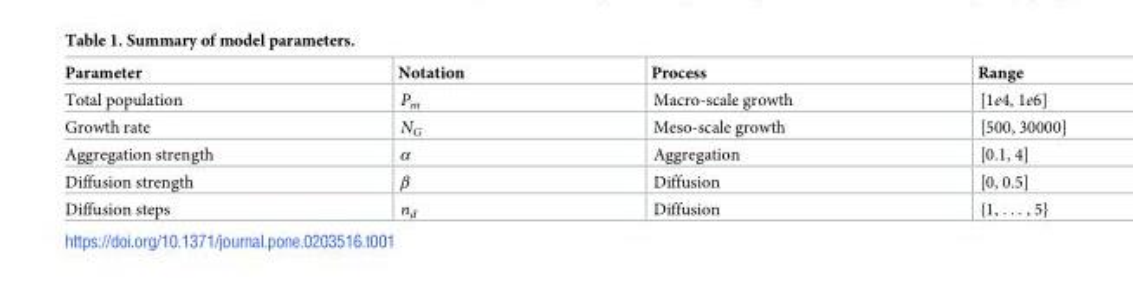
<table><thead><tr><td>Parameter</td><td>Notation</td><td>Process</td><td>Range</td></tr></thead><tbody><tr><td>Total population</td><td>P<sub>m</sub></td><td>Macro-scale growth</td><td>[1e4, 1e6]</td></tr><tr><td>Growth rate</td><td>N<sub>G</sub></td><td>Meso-scale growth</td><td>[500, 30000]</td></tr><tr><td>Aggregation strength</td><td>α</td><td>Aggregation</td><td>[0.1, 4]</td></tr><tr><td>Diffusion strength</td><td>β</td><td>Diffusion</td><td>[0, 0.5]</td></tr><tr><td>Diffusion steps</td><td>n<sub>d</sub></td><td>Diffusion</td><td>{1, . . . , 5}</td></tr></tbody></table>